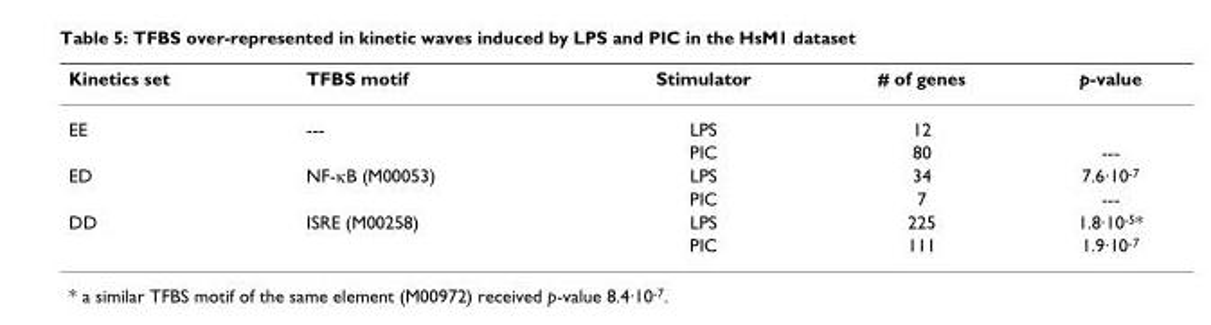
<table><thead><tr><td>Kinetics set</td><td>TFBS motif</td><td>Stimulator</td><td># of genes</td><td>p-value</td></tr></thead><tbody><tr><td rowspan="2">EE</td><td>---</td><td>LPS</td><td>12</td><td></td></tr><tr><td></td><td>PIC</td><td>80</td><td>---</td></tr><tr><td rowspan="2">ED</td><td>NF-κB (M00053)</td><td>LPS</td><td>34</td><td>7.6·10<sup>-7</sup></td></tr><tr><td></td><td>PIC</td><td>7</td><td>---</td></tr><tr><td rowspan="2">DD</td><td>ISRE (M00258)</td><td>LPS</td><td>225</td><td>1.8·10<sup>-5</sup>*</td></tr><tr><td></td><td>PIC</td><td>111</td><td>1.9·10<sup>-7</sup></td></tr></tbody></table>